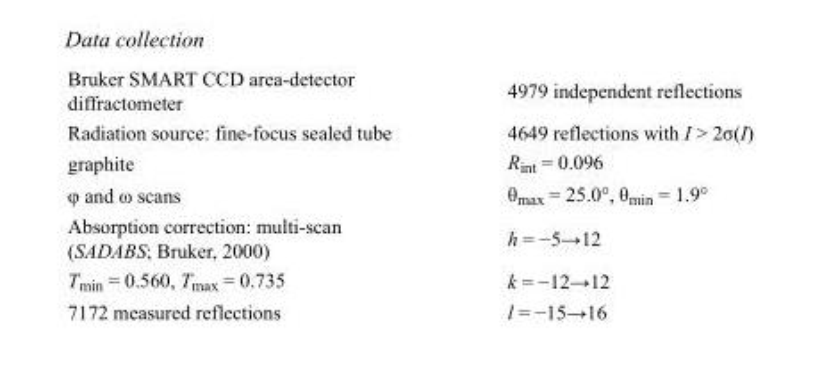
<table><tbody><tr><td>Bruker SMART CCD area-detector diffractometer</td><td>4979 independent reflections</td></tr><tr><td>Radiation source: fine-focus sealed tube</td><td>4649 reflections with I &gt; 2σ(I)</td></tr><tr><td>graphite</td><td>R<sub>int</sub> = 0.096</td></tr><tr><td>φ and ω scans</td><td>θ<sub>max</sub> = 25.0°, θ<sub>min</sub> = 1.9°</td></tr><tr><td>Absorption correction: multi-scan (SADABS; Bruker, 2000)</td><td>h = −5→12</td></tr><tr><td>T<sub>min</sub> = 0.560, T<sub>max</sub> = 0.735</td><td>k = −12→12</td></tr><tr><td>7172 measured reflections</td><td>l = −15→16</td></tr></tbody></table>